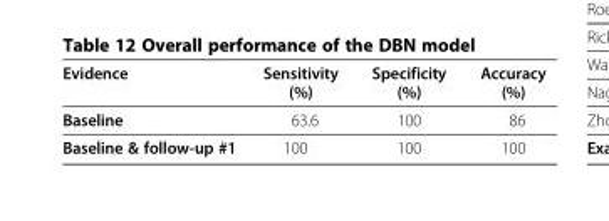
<table><thead><tr><td>Evidence</td><td>Sensitivity (%)</td><td>Specificity (%)</td><td>Accuracy (%)</td></tr></thead><tbody><tr><td>Baseline</td><td>63.6</td><td>100</td><td>86</td></tr><tr><td>Baseline &amp; follow-up #1</td><td>100</td><td>100</td><td>100</td></tr></tbody></table>